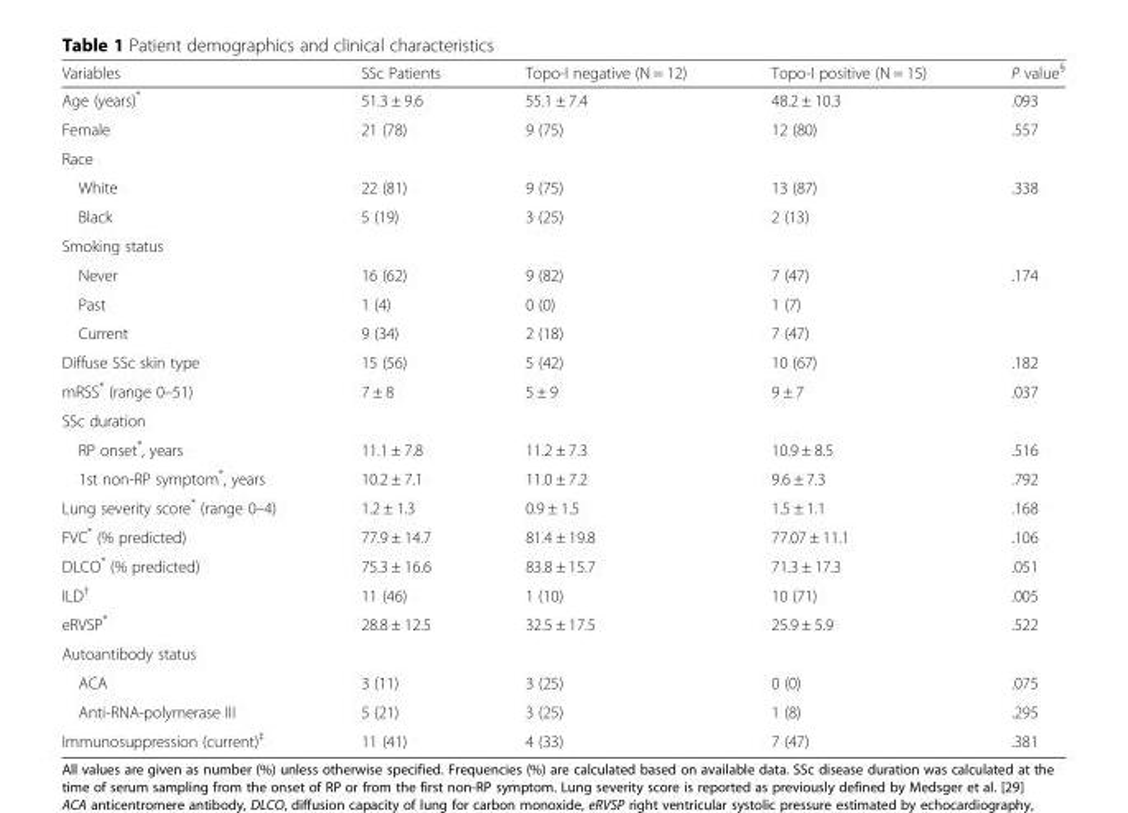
<table><thead><tr><td>Variables</td><td>SSc Patients</td><td>Topo-I negative (N = 12)</td><td>Topo-I positive (N = 15)</td><td>P value<sup>§</sup></td></tr></thead><tbody><tr><td>Age (years)*</td><td>51.3 ± 9.6</td><td>55.1 ± 7.4</td><td>48.2 ± 10.3</td><td>.093</td></tr><tr><td>Female</td><td>21 (78)</td><td>9 (75)</td><td>12 (80)</td><td>.557</td></tr><tr><td colspan="5">Race</td></tr><tr><td>White</td><td>22 (81)</td><td>9 (75)</td><td>13 (87)</td><td rowspan="2">.338</td></tr><tr><td>Black</td><td>5 (19)</td><td>3 (25)</td><td>2 (13)</td></tr><tr><td colspan="5">Smoking status</td></tr><tr><td>Never</td><td>16 (62)</td><td>9 (82)</td><td>7 (47)</td><td rowspan="3">.174</td></tr><tr><td>Past</td><td>1 (4)</td><td>0 (0)</td><td>1 (7)</td></tr><tr><td>Current</td><td>9 (34)</td><td>2 (18)</td><td>7 (47)</td></tr><tr><td>Diffuse SSc skin type</td><td>15 (56)</td><td>5 (42)</td><td>10 (67)</td><td>.182</td></tr><tr><td>mRSS* (range 0–51)</td><td>7 ± 8</td><td>5 ± 9</td><td>9 ± 7</td><td>.037</td></tr><tr><td colspan="5">SSc duration</td></tr><tr><td>RP onset*, years</td><td>11.1 ± 7.8</td><td>11.2 ± 7.3</td><td>10.9 ± 8.5</td><td>.516</td></tr><tr><td>1st non-RP symptom*, years</td><td>10.2 ± 7.1</td><td>11.0 ± 7.2</td><td>9.6 ± 7.3</td><td>.792</td></tr><tr><td>Lung severity score* (range 0–4)</td><td>1.2 ± 1.3</td><td>0.9 ± 1.5</td><td>1.5 ± 1.1</td><td>.168</td></tr><tr><td>FVC* (% predicted)</td><td>77.9 ± 14.7</td><td>81.4 ± 19.8</td><td>77.07 ± 11.1</td><td>.106</td></tr><tr><td>DLCO* (% predicted)</td><td>75.3 ± 16.6</td><td>83.8 ± 15.7</td><td>71.3 ± 17.3</td><td>.051</td></tr><tr><td>ILD<sup>†</sup></td><td>11 (46)</td><td>1 (10)</td><td>10 (71)</td><td>.005</td></tr><tr><td>eRVSP*</td><td>28.8 ± 12.5</td><td>32.5 ± 17.5</td><td>25.9 ± 5.9</td><td>.522</td></tr><tr><td colspan="5">Autoantibody status</td></tr><tr><td>ACA</td><td>3 (11)</td><td>3 (25)</td><td>0 (0)</td><td>.075</td></tr><tr><td>Anti-RNA-polymerase III</td><td>5 (21)</td><td>3 (25)</td><td>1 (8)</td><td>.295</td></tr><tr><td>Immunosuppression (current)<sup>‡</sup></td><td>11 (41)</td><td>4 (33)</td><td>7 (47)</td><td>.381</td></tr></tbody></table>